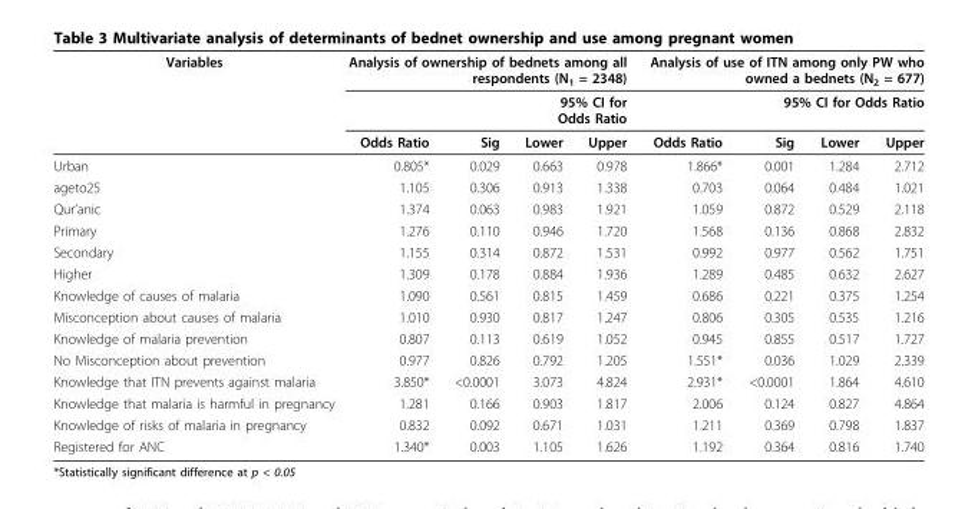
<table><thead><tr><td rowspan="3">Variables</td><td rowspan="2" colspan="4">Analysis of ownership of bednets among all respondents (N<sub>1</sub> = 2348) 95% CI for Odds Ratio</td><td rowspan="2" colspan="4">Analysis of use of ITN among only PW who owned a bednets (N<sub>2</sub> = 677) 95% CI for Odds Ratio</td></tr><tr></tr><tr><td>Odds Ratio</td><td>Sig</td><td>Lower</td><td>Upper</td><td>Odds Ratio</td><td>Sig</td><td>Lower</td><td>Upper</td></tr></thead><tbody><tr><td>Urban</td><td>0.805*</td><td>0.029</td><td>0.663</td><td>0.978</td><td>1.866*</td><td>0.001</td><td>1.284</td><td>2.712</td></tr><tr><td>ageto25</td><td>1.105</td><td>0.306</td><td>0.913</td><td>1.338</td><td>0.703</td><td>0.064</td><td>0.484</td><td>1.021</td></tr><tr><td>Qur’anic</td><td>1.374</td><td>0.063</td><td>0.983</td><td>1.921</td><td>1.059</td><td>0.872</td><td>0.529</td><td>2.118</td></tr><tr><td>Primary</td><td>1.276</td><td>0.110</td><td>0.946</td><td>1.720</td><td>1.568</td><td>0.136</td><td>0.868</td><td>2.832</td></tr><tr><td>Secondary</td><td>1.155</td><td>0.314</td><td>0.872</td><td>1.531</td><td>0.992</td><td>0.977</td><td>0.562</td><td>1.751</td></tr><tr><td>Higher</td><td>1.309</td><td>0.178</td><td>0.884</td><td>1.936</td><td>1.289</td><td>0.485</td><td>0.632</td><td>2.627</td></tr><tr><td>Knowledge of causes of malaria</td><td>1.090</td><td>0.561</td><td>0.815</td><td>1.459</td><td>0.686</td><td>0.221</td><td>0.375</td><td>1.254</td></tr><tr><td>Misconception about causes of malaria</td><td>1.010</td><td>0.930</td><td>0.817</td><td>1.247</td><td>0.806</td><td>0.305</td><td>0.535</td><td>1.216</td></tr><tr><td>Knowledge of malaria prevention</td><td>0.807</td><td>0.113</td><td>0.619</td><td>1.052</td><td>0.945</td><td>0.855</td><td>0.517</td><td>1.727</td></tr><tr><td>No Misconception about prevention</td><td>0.977</td><td>0.826</td><td>0.792</td><td>1.205</td><td>1.551*</td><td>0.036</td><td>1.029</td><td>2.339</td></tr><tr><td>Knowledge that ITN prevents against malaria</td><td>3.850*</td><td>&lt;0.0001</td><td>3.073</td><td>4.824</td><td>2.931*</td><td>&lt;0.0001</td><td>1.864</td><td>4.610</td></tr><tr><td>Knowledge that malaria is harmful in pregnancy</td><td>1.281</td><td>0.166</td><td>0.903</td><td>1.817</td><td>2.006</td><td>0.124</td><td>0.827</td><td>4.864</td></tr><tr><td>Knowledge of risks of malaria in pregnancy</td><td>0.832</td><td>0.092</td><td>0.671</td><td>1.031</td><td>1.211</td><td>0.369</td><td>0.798</td><td>1.837</td></tr><tr><td>Registered for ANC</td><td>1.340*</td><td>0.003</td><td>1.105</td><td>1.626</td><td>1.192</td><td>0.364</td><td>0.816</td><td>1.740</td></tr></tbody></table>